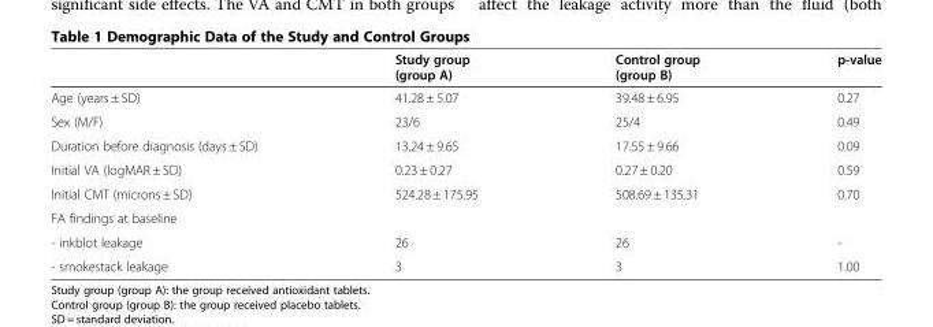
<table><thead><tr><td></td><td>Study group (group A)</td><td>Control group (group B)</td><td>p-value</td></tr></thead><tbody><tr><td>Age (years ± SD)</td><td>41.28 ± 5.07</td><td>39.48 ± 6.95</td><td>0.27</td></tr><tr><td>Sex (M/F)</td><td>23/6</td><td>25/4</td><td>0.49</td></tr><tr><td>Duration before diagnosis (days ± SD)</td><td>13.24 ± 9.65</td><td>17.55 ± 9.66</td><td>0.09</td></tr><tr><td>Initial VA (logMAR ± SD)</td><td>0.23 ± 0.27</td><td>0.27 ± 0.20</td><td>0.59</td></tr><tr><td>Initial CMT (microns ± SD)</td><td>524.28 ± 175.95</td><td>508.69 ± 135.31</td><td>0.70</td></tr><tr><td colspan="4">FA findings at baseline</td></tr><tr><td>- inkblot leakage</td><td>26</td><td>26</td><td>-</td></tr><tr><td>- smokestack leakage</td><td>3</td><td>3</td><td>1.00</td></tr></tbody></table>